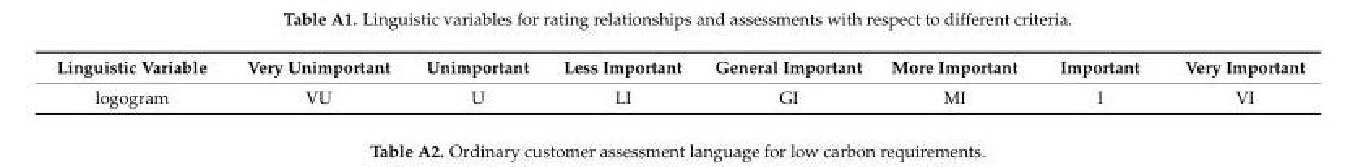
<table><thead><tr><td>Linguistic Variable</td><td>Very Unimportant</td><td>Unimportant</td><td>Less Important</td><td>General Important</td><td>More Important</td><td>Important</td><td>Very Important</td></tr></thead><tbody><tr><td>logogram</td><td>VU</td><td>U</td><td>LI</td><td>GI</td><td>MI</td><td>I</td><td>VI</td></tr></tbody></table>